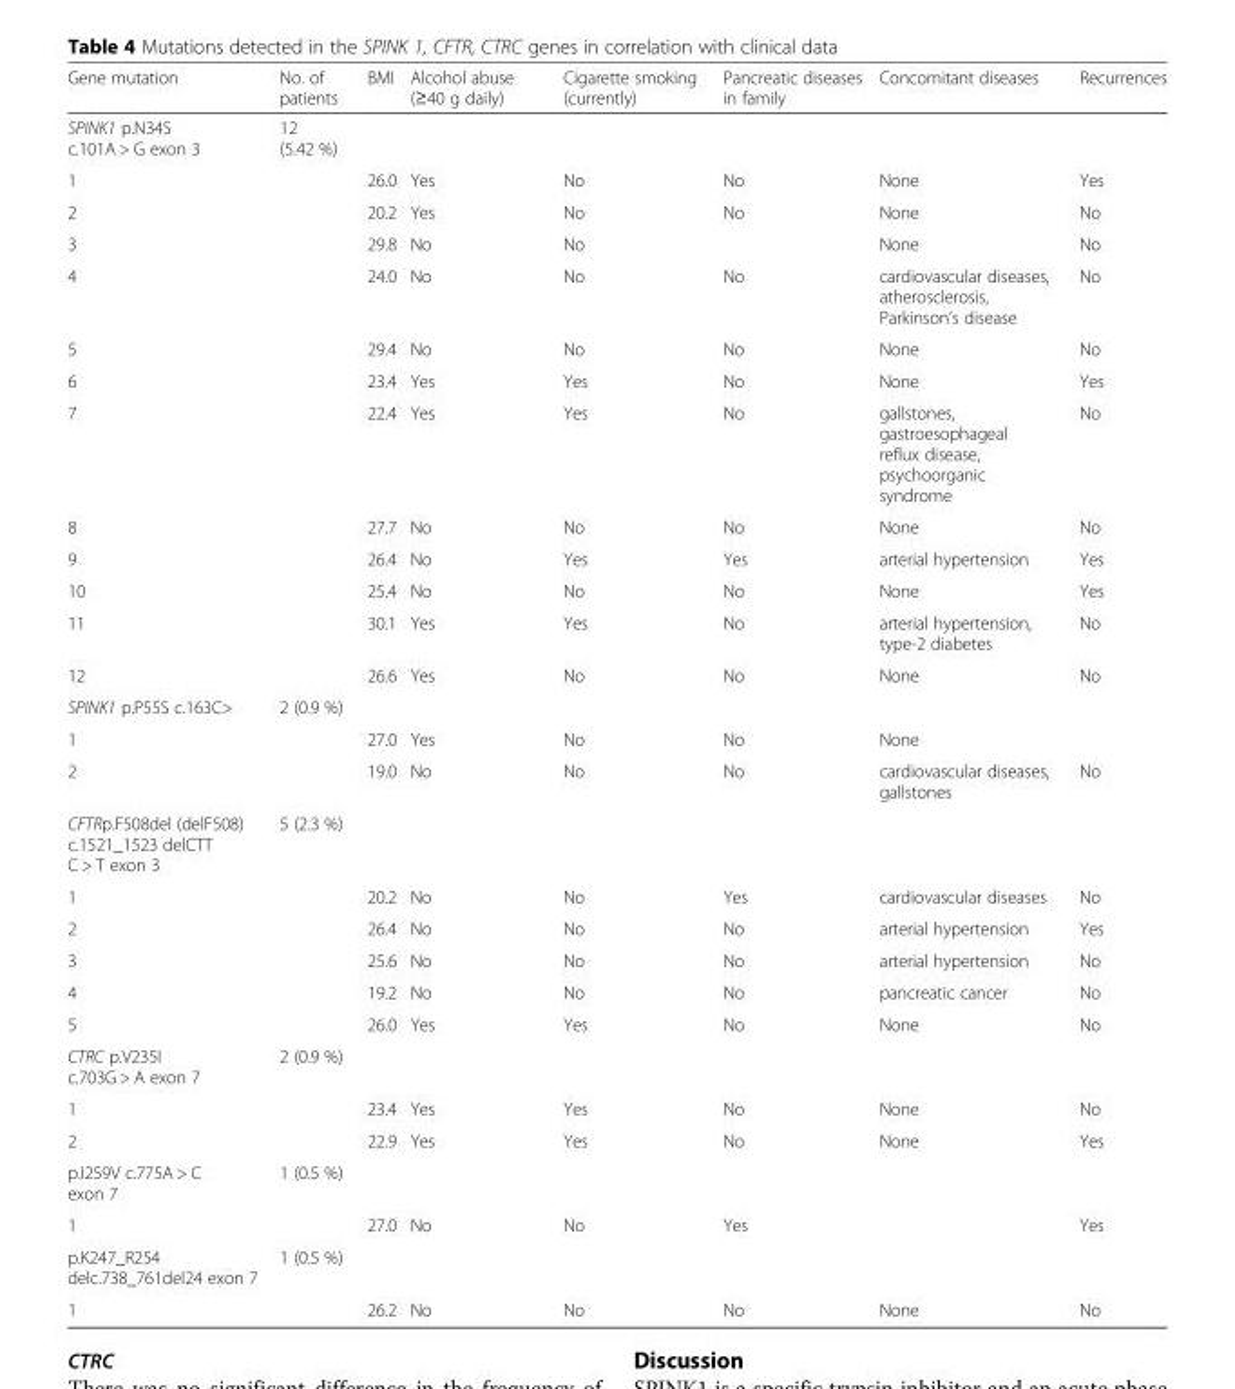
<table><thead><tr><td>Gene mutation</td><td>No. of patients</td><td>BMI</td><td>Alcohol abuse (≥40 g daily)</td><td>Cigarette smoking (currently)</td><td>Pancreatic diseases in family</td><td>Concomitant diseases</td><td>Recurrences</td></tr></thead><tbody><tr><td>SPINK1 p.N34S c.101A &gt; G exon 3</td><td>12 (5.42 %)</td><td></td><td></td><td></td><td></td><td></td><td></td></tr><tr><td>1</td><td></td><td>26.0</td><td>Yes</td><td>No</td><td>No</td><td>None</td><td>Yes</td></tr><tr><td>2</td><td></td><td>20.2</td><td>Yes</td><td>No</td><td>No</td><td>None</td><td>No</td></tr><tr><td>3</td><td></td><td>29.8</td><td>No</td><td>No</td><td></td><td>None</td><td>No</td></tr><tr><td>4</td><td></td><td>24.0</td><td>No</td><td>No</td><td>No</td><td>cardiovascular diseases, atherosclerosis, Parkinson’s disease</td><td>No</td></tr><tr><td>5</td><td></td><td>29.4</td><td>No</td><td>No</td><td>No</td><td>None</td><td>No</td></tr><tr><td>6</td><td></td><td>23.4</td><td>Yes</td><td>Yes</td><td>No</td><td>None</td><td>Yes</td></tr><tr><td>7</td><td></td><td>22.4</td><td>Yes</td><td>Yes</td><td>No</td><td>gallstones, gastroesophageal reflux disease, psychoorganic syndrome</td><td>No</td></tr><tr><td>8</td><td></td><td>27.7</td><td>No</td><td>No</td><td>No</td><td>None</td><td>No</td></tr><tr><td>9</td><td></td><td>26.4</td><td>No</td><td>Yes</td><td>Yes</td><td>arterial hypertension</td><td>Yes</td></tr><tr><td>10</td><td></td><td>25.4</td><td>No</td><td>No</td><td>No</td><td>None</td><td>Yes</td></tr><tr><td>11</td><td></td><td>30.1</td><td>Yes</td><td>Yes</td><td>No</td><td>arterial hypertension, type-2 diabetes</td><td>No</td></tr><tr><td>12</td><td></td><td>26.6</td><td>Yes</td><td>No</td><td>No</td><td>None</td><td>No</td></tr><tr><td>SPINK1 p.P55S c.163C&gt;</td><td>2 (0.9 %)</td><td></td><td></td><td></td><td></td><td></td><td></td></tr><tr><td>1</td><td></td><td>27.0</td><td>Yes</td><td>No</td><td>No</td><td>None</td><td></td></tr><tr><td>2</td><td></td><td>19.0</td><td>No</td><td>No</td><td>No</td><td>cardiovascular diseases, gallstones</td><td>No</td></tr><tr><td>CFTRp.F508del (delF508) c.1521_1523 delCTT C &gt; T exon 3</td><td>5 (2.3 %)</td><td></td><td></td><td></td><td></td><td></td><td></td></tr><tr><td>1</td><td></td><td>20.2</td><td>No</td><td>No</td><td>Yes</td><td>cardiovascular diseases</td><td>No</td></tr><tr><td>2</td><td></td><td>26.4</td><td>No</td><td>No</td><td>No</td><td>arterial hypertension</td><td>Yes</td></tr><tr><td>3</td><td></td><td>25.6</td><td>No</td><td>No</td><td>No</td><td>arterial hypertension</td><td>No</td></tr><tr><td>4</td><td></td><td>19.2</td><td>No</td><td>No</td><td>No</td><td>pancreatic cancer</td><td>No</td></tr><tr><td>5</td><td></td><td>26.0</td><td>Yes</td><td>Yes</td><td>No</td><td>None</td><td>No</td></tr><tr><td>CTRC p.V235I c.703G &gt; A exon 7</td><td>2 (0.9 %)</td><td></td><td></td><td></td><td></td><td></td><td></td></tr><tr><td>1</td><td></td><td>23.4</td><td>Yes</td><td>Yes</td><td>No</td><td>None</td><td>No</td></tr><tr><td>2</td><td></td><td>22.9</td><td>Yes</td><td>Yes</td><td>No</td><td>None</td><td>Yes</td></tr><tr><td>p.I259V c.775A &gt; C exon 7</td><td>1 (0.5 %)</td><td></td><td></td><td></td><td></td><td></td><td></td></tr><tr><td>1</td><td></td><td>27.0</td><td>No</td><td>No</td><td>Yes</td><td></td><td>Yes</td></tr><tr><td>p.K247_R254 delc.738_761del24 exon 7</td><td>1 (0.5 %)</td><td></td><td></td><td></td><td></td><td></td><td></td></tr><tr><td>1</td><td></td><td>26.2</td><td>No</td><td>No</td><td>No</td><td>None</td><td>No</td></tr></tbody></table>